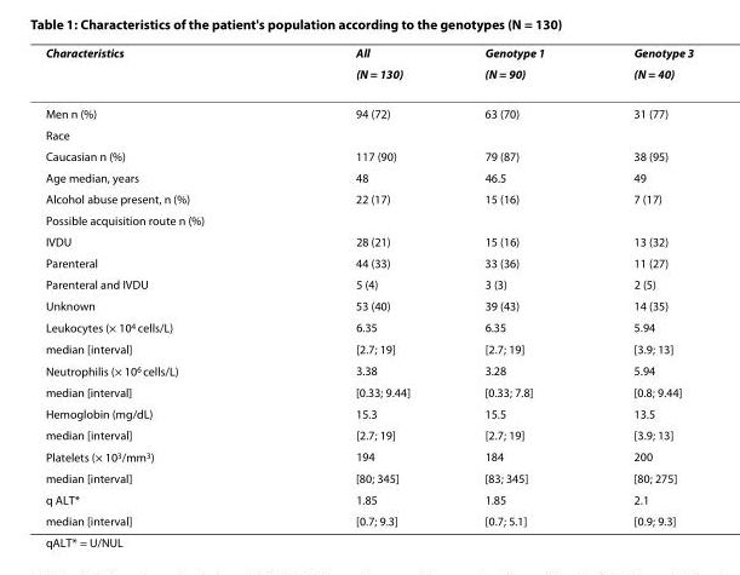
<table><thead><tr><td rowspan="2">Characteristics</td><td rowspan="2">All (N = 130)</td><td rowspan="2">Genotype 1 (N = 90)</td><td rowspan="2">Genotype 3 (N = 40)</td></tr><tr></tr></thead><tbody><tr><td>Men n (%)</td><td>94 (72)</td><td>63 (70)</td><td>31 (77)</td></tr><tr><td colspan="4">Race</td></tr><tr><td>Caucasian n (%)</td><td>117 (90)</td><td>79 (87)</td><td>38 (95)</td></tr><tr><td>Age median, years</td><td>48</td><td>46.5</td><td>49</td></tr><tr><td>Alcohol abuse present, n (%)</td><td>22 (17)</td><td>15 (16)</td><td>7 (17)</td></tr><tr><td colspan="4">Possible acquisition route n (%)</td></tr><tr><td>IVDU</td><td>28 (21)</td><td>15 (16)</td><td>13 (32)</td></tr><tr><td>Parenteral</td><td>44 (33)</td><td>33 (36)</td><td>11 (27)</td></tr><tr><td>Parenteral and IVDU</td><td>5 (4)</td><td>3 (3)</td><td>2 (5)</td></tr><tr><td>Unknown</td><td>53 (40)</td><td>39 (43)</td><td>14 (35)</td></tr><tr><td>Leukocytes (× 10<sup>4</sup> cells/L)</td><td>6.35</td><td>6.35</td><td>5.94</td></tr><tr><td>median [interval]</td><td>[2.7; 19]</td><td>[2.7; 19]</td><td>[3.9; 13]</td></tr><tr><td>Neutrophilis (× 10<sup>6</sup> cells/L)</td><td>3.38</td><td>3.28</td><td>5.94</td></tr><tr><td>median [interval]</td><td>[0.33; 9.44]</td><td>[0.33; 7.8]</td><td>[0.8; 9.44]</td></tr><tr><td>Hemoglobin (mg/dL)</td><td>15.3</td><td>15.5</td><td>13.5</td></tr><tr><td>median [interval]</td><td>[2.7; 19]</td><td>[2.7; 19]</td><td>[3.9; 13]</td></tr><tr><td>Platelets (× 10<sup>3</sup>/mm<sup>3</sup>)</td><td>194</td><td>184</td><td>200</td></tr><tr><td>median [interval]</td><td>[80; 345]</td><td>[83; 345]</td><td>[80; 275]</td></tr><tr><td>q ALT*</td><td>1.85</td><td>1.85</td><td>2.1</td></tr><tr><td>median [interval]</td><td>[0.7; 9.3]</td><td>[0.7; 5.1]</td><td>[0.9; 9.3]</td></tr></tbody></table>